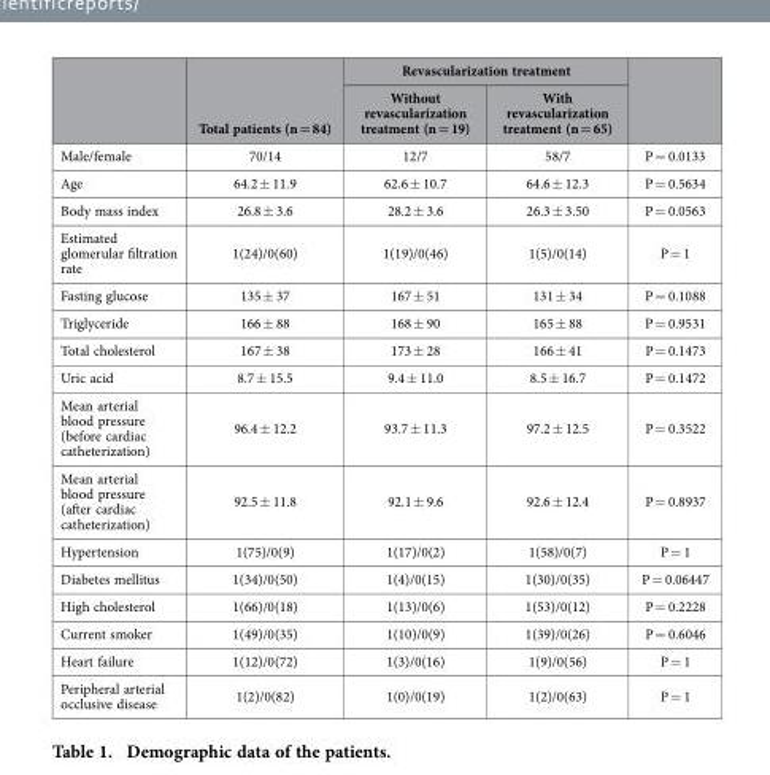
<table><thead><tr><td rowspan="2"></td><td rowspan="2">Total patients (n = 84)</td><td colspan="2">Revascularization treatment</td><td rowspan="2"></td></tr><tr><td>Without revascularization treatment (n = 19)</td><td>With revascularization treatment (n = 65)</td></tr></thead><tbody><tr><td>Male/female</td><td>70/14</td><td>12/7</td><td>58/7</td><td>P = 0.0133</td></tr><tr><td>Age</td><td>64.2 ± 11.9</td><td>62.6 ± 10.7</td><td>64.6 ± 12.3</td><td>P = 0.5634</td></tr><tr><td>Body mass index</td><td>26.8 ± 3.6</td><td>28.2 ± 3.6</td><td>26.3 ± 3.50</td><td>P = 0.0563</td></tr><tr><td>Estimated glomerular filtration rate</td><td>1(24)/0(60)</td><td>1(19)/0(46)</td><td>1(5)/0(14)</td><td>P = 1</td></tr><tr><td>Fasting glucose</td><td>135 ± 37</td><td>167 ± 51</td><td>131 ± 34</td><td>P = 0.1088</td></tr><tr><td>Triglyceride</td><td>166 ± 88</td><td>168 ± 90</td><td>165 ± 88</td><td>P = 0.9531</td></tr><tr><td>Total cholesterol</td><td>167 ± 38</td><td>173 ± 28</td><td>166 ± 41</td><td>P = 0.1473</td></tr><tr><td>Uric acid</td><td>8.7 ± 15.5</td><td>9.4 ± 11.0</td><td>8.5 ± 16.7</td><td>P = 0.1472</td></tr><tr><td>Mean arterial blood pressure (before cardiac catheterization)</td><td>96.4 ± 12.2</td><td>93.7 ± 11.3</td><td>97.2 ± 12.5</td><td>P = 0.3522</td></tr><tr><td>Mean arterial blood pressure (after cardiac catheterization)</td><td>92.5 ± 11.8</td><td>92.1 ± 9.6</td><td>92.6 ± 12.4</td><td>P = 0.8937</td></tr><tr><td>Hypertension</td><td>1(75)/0(9)</td><td>1(17)/0(2)</td><td>1(58)/0(7)</td><td>P = 1</td></tr><tr><td>Diabetes mellitus</td><td>1(34)/0(50)</td><td>1(4)/0(15)</td><td>1(30)/0(35)</td><td>P = 0.06447</td></tr><tr><td>High cholesterol</td><td>1(66)/0(18)</td><td>1(13)/0(6)</td><td>1(53)/0(12)</td><td>P = 0.2228</td></tr><tr><td>Current smoker</td><td>1(49)/0(35)</td><td>1(10)/0(9)</td><td>1(39)/0(26)</td><td>P = 0.6046</td></tr><tr><td>Heart failure</td><td>1(12)/0(72)</td><td>1(3)/0(16)</td><td>1(9)/0(56)</td><td>P = 1</td></tr><tr><td>Peripheral arterial occlusive disease</td><td>1(2)/0(82)</td><td>1(0)/0(19)</td><td>1(2)/0(63)</td><td>P = 1</td></tr></tbody></table>